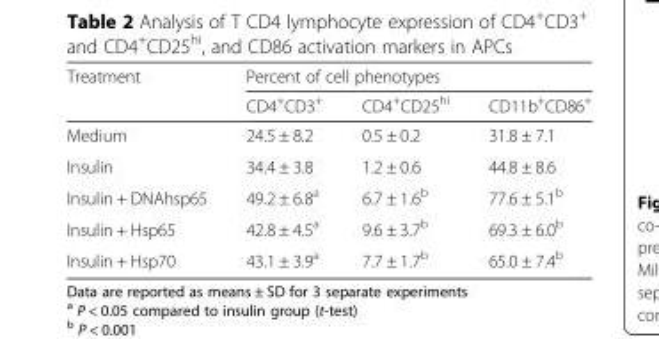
<table><thead><tr><td rowspan="2">Treatment</td><td colspan="3">Percent of cell phenotypes</td></tr><tr><td>CD4<sup>+</sup>CD3<sup>+</sup></td><td>CD4<sup>+</sup>CD25<sup>hi</sup></td><td>CD11b<sup>+</sup>CD86<sup>+</sup></td></tr></thead><tbody><tr><td>Medium</td><td>24.5 ± 8.2</td><td>0.5 ± 0.2</td><td>31.8 ± 7.1</td></tr><tr><td>Insulin</td><td>34.4 ± 3.8</td><td>1.2 ± 0.6</td><td>44.8 ± 8.6</td></tr><tr><td>Insulin + DNAhsp65</td><td>49.2 ± 6.8<sup>a</sup></td><td>6.7 ± 1.6<sup>b</sup></td><td>77.6 ± 5.1<sup>b</sup></td></tr><tr><td>Insulin + Hsp65</td><td>42.8 ± 4.5<sup>a</sup></td><td>9.6 ± 3.7<sup>b</sup></td><td>69.3 ± 6.0<sup>b</sup></td></tr><tr><td>Insulin + Hsp70</td><td>43.1 ± 3.9<sup>a</sup></td><td>7.7 ± 1.7<sup>b</sup></td><td>65.0 ± 7.4<sup>b</sup></td></tr></tbody></table>